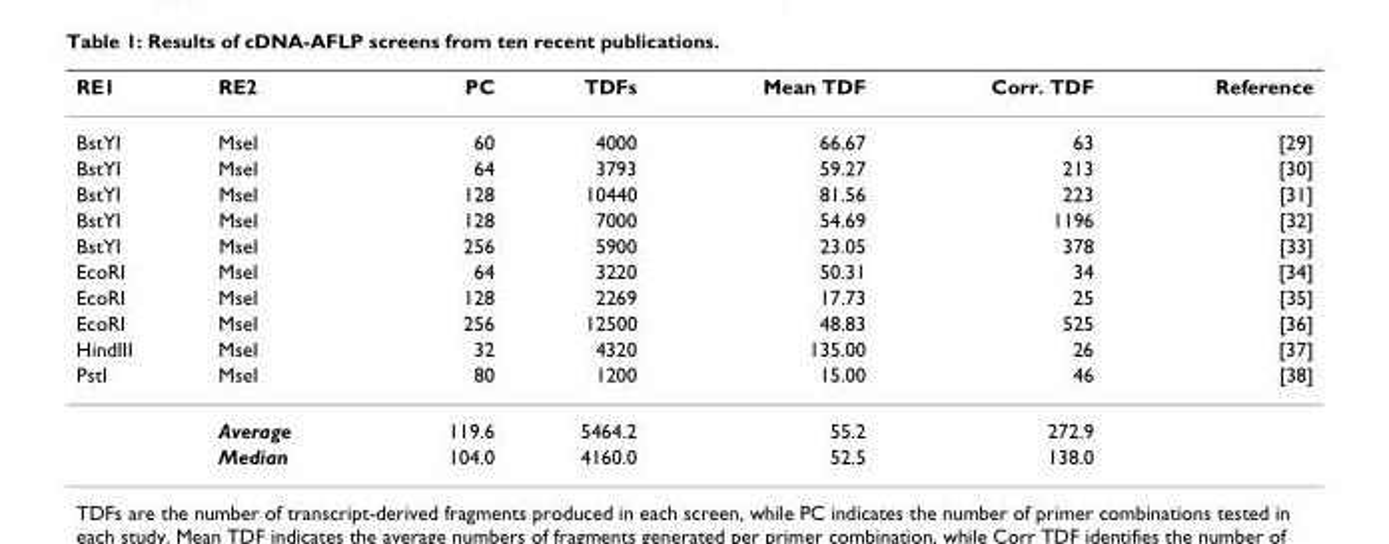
<table><thead><tr><td>RE1</td><td>RE2</td><td>PC</td><td>TDFs</td><td>Mean TDF</td><td>Corr. TDF</td><td>Reference</td></tr></thead><tbody><tr><td>BstYI</td><td>MseI</td><td>60</td><td>4000</td><td>66.67</td><td>63</td><td>[29]</td></tr><tr><td>BstYI</td><td>MseI</td><td>64</td><td>3793</td><td>59.27</td><td>213</td><td>[30]</td></tr><tr><td>BstYI</td><td>MseI</td><td>128</td><td>10440</td><td>81.56</td><td>223</td><td>[31]</td></tr><tr><td>BstYI</td><td>MseI</td><td>128</td><td>7000</td><td>54.69</td><td>1196</td><td>[32]</td></tr><tr><td>BstYI</td><td>MseI</td><td>256</td><td>5900</td><td>23.05</td><td>378</td><td>[33]</td></tr><tr><td>EcoRI</td><td>MseI</td><td>64</td><td>3220</td><td>50.31</td><td>34</td><td>[34]</td></tr><tr><td>EcoRI</td><td>MseI</td><td>128</td><td>2269</td><td>17.73</td><td>25</td><td>[35]</td></tr><tr><td>EcoRI</td><td>MseI</td><td>256</td><td>12500</td><td>48.83</td><td>525</td><td>[36]</td></tr><tr><td>HindIII</td><td>MseI</td><td>32</td><td>4320</td><td>135.00</td><td>26</td><td>[37]</td></tr><tr><td rowspan="3">PstI</td><td>MseI</td><td>80</td><td>1200</td><td>15.00</td><td>46</td><td>[38]</td></tr><tr><td>Average</td><td>119.6</td><td>5464.2</td><td>55.2</td><td>272.9</td><td></td></tr><tr><td>Median</td><td>104.0</td><td>4160.0</td><td>52.5</td><td>138.0</td><td></td></tr></tbody></table>